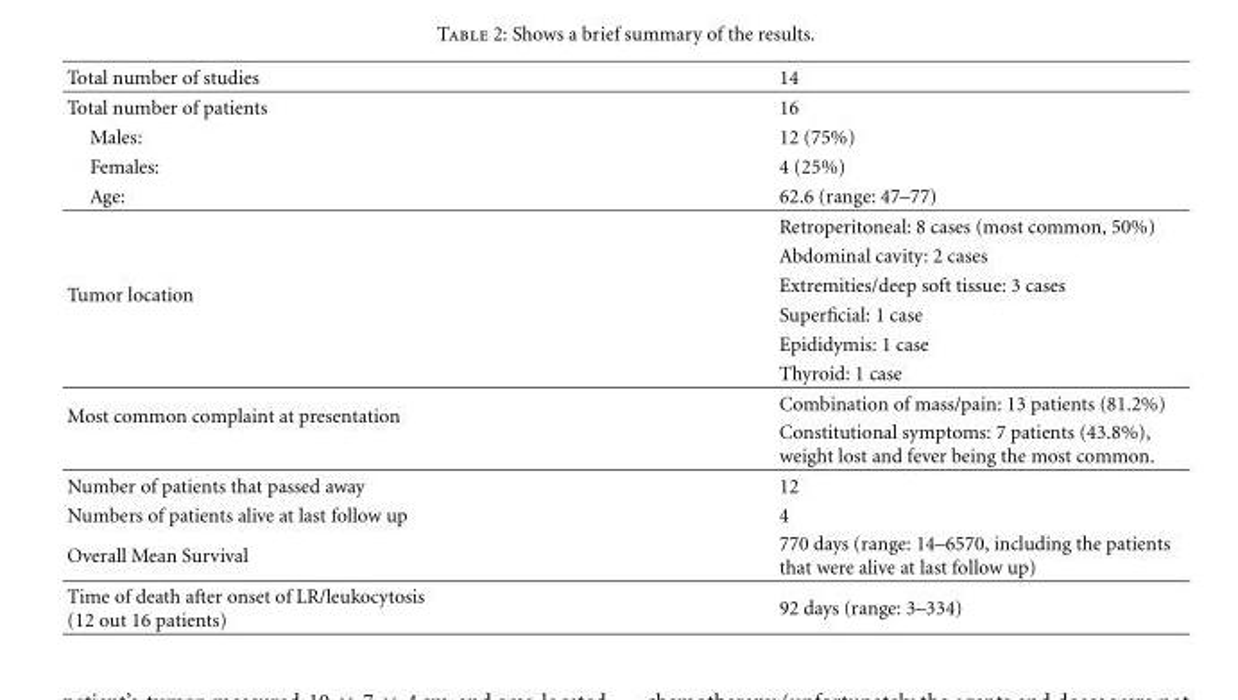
<table><tbody><tr><td>Total number of studies</td><td>14</td></tr><tr><td>Total number of patients</td><td>16</td></tr><tr><td>Males:</td><td>12 (75%)</td></tr><tr><td>Females:</td><td>4 (25%)</td></tr><tr><td>Age:</td><td>62.6 (range: 47–77)</td></tr><tr><td rowspan="6">Tumor location</td><td>Retroperitoneal: 8 cases (most common, 50%)</td></tr><tr><td>Abdominal cavity: 2 cases</td></tr><tr><td>Extremities/deep soft tissue: 3 cases</td></tr><tr><td>Superficial: 1 case</td></tr><tr><td>Epididymis: 1 case</td></tr><tr><td>Thyroid: 1 case</td></tr><tr><td rowspan="2">Most common complaint at presentation</td><td>Combination of mass/pain: 13 patients (81.2%)</td></tr><tr><td>Constitutional symptoms: 7 patients (43.8%), weight lost and fever being the most common.</td></tr><tr><td>Number of patients that passed away</td><td>12</td></tr><tr><td>Numbers of patients alive at last follow up</td><td>4</td></tr><tr><td>Overall Mean Survival</td><td>770 days (range: 14–6570, including the patients that were alive at last follow up)</td></tr><tr><td>Time of death after onset of LR/leukocytosis (12 out 16 patients)</td><td>92 days (range: 3–334)</td></tr></tbody></table>